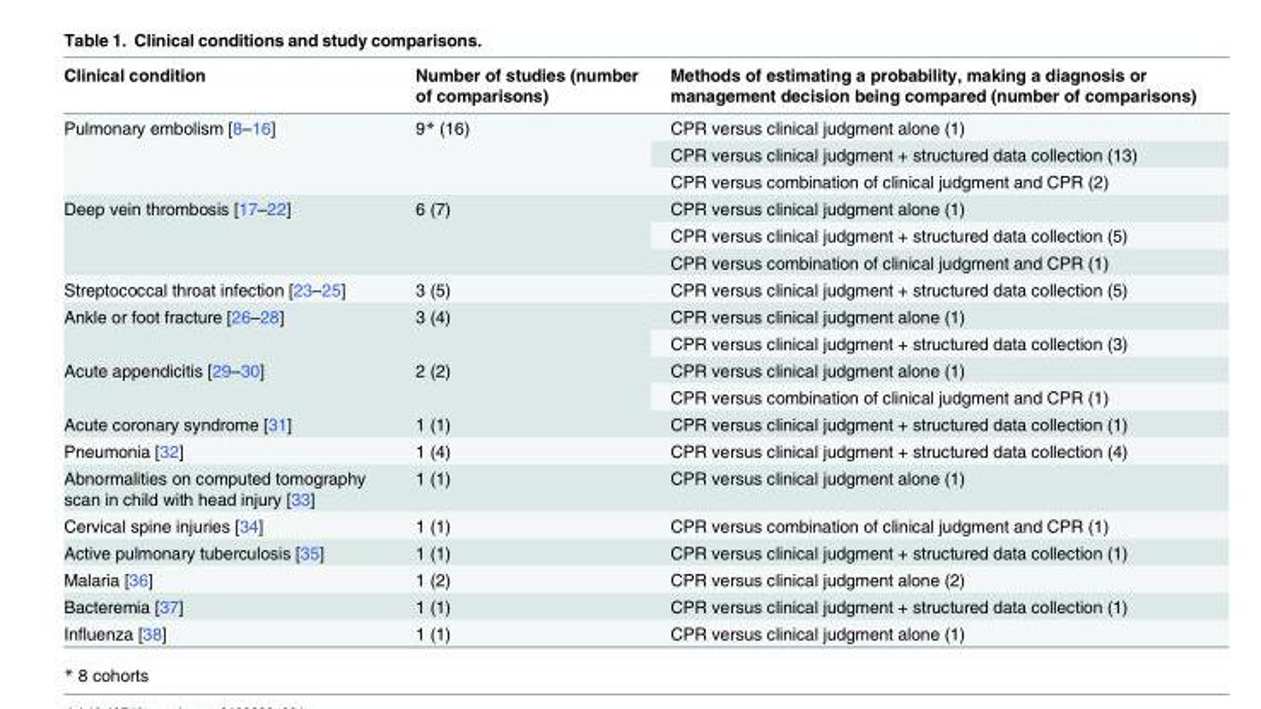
<table><thead><tr><td>Clinical condition</td><td>Number of studies (number of comparisons)</td><td>Methods of estimating a probability, making a diagnosis or management decision being compared (number of comparisons)</td></tr></thead><tbody><tr><td rowspan="3">Pulmonary embolism [8–16]</td><td rowspan="3">9* (16)</td><td>CPR versus clinical judgment alone (1)</td></tr><tr><td>CPR versus clinical judgment + structured data collection (13)</td></tr><tr><td>CPR versus combination of clinical judgment and CPR (2)</td></tr><tr><td rowspan="3">Deep vein thrombosis [17–22]</td><td rowspan="3">6 (7)</td><td>CPR versus clinical judgment alone (1)</td></tr><tr><td>CPR versus clinical judgment + structured data collection (5)</td></tr><tr><td>CPR versus combination of clinical judgment and CPR (1)</td></tr><tr><td>Streptococcal throat infection [23–25]</td><td>3 (5)</td><td>CPR versus clinical judgment + structured data collection (5)</td></tr><tr><td rowspan="2">Ankle or foot fracture [26–28]</td><td rowspan="2">3 (4)</td><td>CPR versus clinical judgment alone (1)</td></tr><tr><td>CPR versus clinical judgment + structured data collection (3)</td></tr><tr><td rowspan="2">Acute appendicitis [29–30]</td><td rowspan="2">2 (2)</td><td>CPR versus clinical judgment alone (1)</td></tr><tr><td>CPR versus combination of clinical judgment and CPR (1)</td></tr><tr><td>Acute coronary syndrome [31]</td><td>1 (1)</td><td>CPR versus clinical judgment + structured data collection (1)</td></tr><tr><td>Pneumonia [32]</td><td>1 (4)</td><td>CPR versus clinical judgment + structured data collection (4)</td></tr><tr><td>Abnormalities on computed tomography scan in child with head injury [33]</td><td>1 (1)</td><td>CPR versus clinical judgment alone (1)</td></tr><tr><td>Cervical spine injuries [34]</td><td>1 (1)</td><td>CPR versus combination of clinical judgment and CPR (1)</td></tr><tr><td>Active pulmonary tuberculosis [35]</td><td>1 (1)</td><td>CPR versus clinical judgment + structured data collection (1)</td></tr><tr><td>Malaria [36]</td><td>1 (2)</td><td>CPR versus clinical judgment alone (2)</td></tr><tr><td>Bacteremia [37]</td><td>1 (1)</td><td>CPR versus clinical judgment + structured data collection (1)</td></tr><tr><td>Influenza [38]</td><td>1 (1)</td><td>CPR versus clinical judgment alone (1)</td></tr></tbody></table>